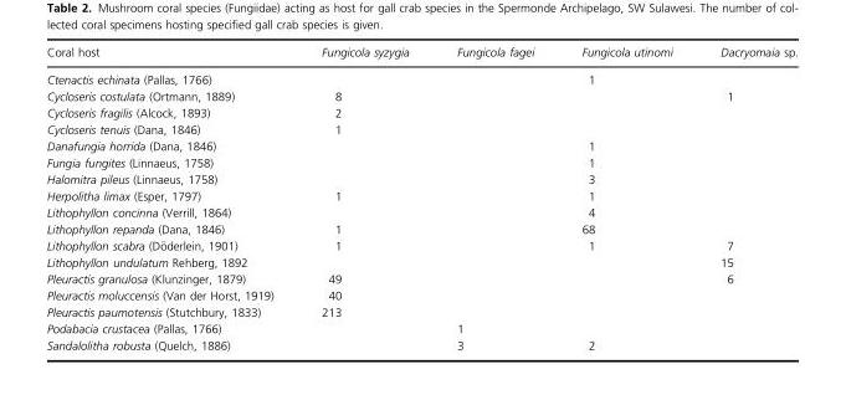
<table><thead><tr><td>Coral host</td><td>Fungicola syzygia</td><td>Fungicola fagei</td><td>Fungicola utinomi</td><td>Dacryomaia sp.</td></tr></thead><tbody><tr><td>Ctenactis echinata (Pallas, 1766)</td><td></td><td></td><td>1</td><td></td></tr><tr><td>Cycloseris costulata (Ortmann, 1889)</td><td>8</td><td></td><td></td><td>1</td></tr><tr><td>Cycloseris fragilis (Alcock, 1893)</td><td>2</td><td></td><td></td><td></td></tr><tr><td>Cycloseris tenuis (Dana, 1846)</td><td>1</td><td></td><td></td><td></td></tr><tr><td>Danafungia horrida (Dana, 1846)</td><td></td><td></td><td>1</td><td></td></tr><tr><td>Fungia fungites (Linnaeus, 1758)</td><td></td><td></td><td>1</td><td></td></tr><tr><td>Halomitra pileus (Linnaeus, 1758)</td><td></td><td></td><td>3</td><td></td></tr><tr><td>Herpolitha limax (Esper, 1797)</td><td>1</td><td></td><td>1</td><td></td></tr><tr><td>Lithophyllon concinna (Verrill, 1864)</td><td></td><td></td><td>4</td><td></td></tr><tr><td>Lithophyllon repanda (Dana, 1846)</td><td>1</td><td></td><td>68</td><td></td></tr><tr><td>Lithophyllon scabra (D€oderlein, 1901)</td><td>1</td><td></td><td>1</td><td>7</td></tr><tr><td>Lithophyllon undulatum Rehberg, 1892</td><td></td><td></td><td></td><td>15</td></tr><tr><td>Pleuractis granulosa (Klunzinger, 1879)</td><td>49</td><td></td><td></td><td>6</td></tr><tr><td>Pleuractis moluccensis (Van der Horst, 1919)</td><td>40</td><td></td><td></td><td></td></tr><tr><td>Pleuractis paumotensis (Stutchbury, 1833)</td><td>213</td><td></td><td></td><td></td></tr><tr><td>Podabacia crustacea (Pallas, 1766)</td><td></td><td>1</td><td></td><td></td></tr><tr><td>Sandalolitha robusta (Quelch, 1886)</td><td></td><td>3</td><td>2</td><td></td></tr></tbody></table>